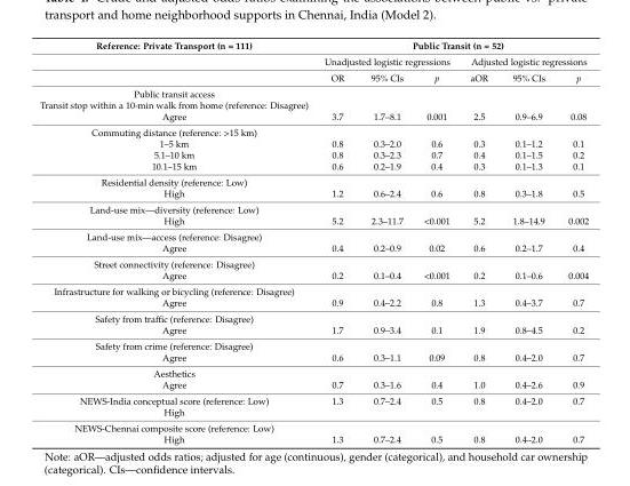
<table><thead><tr><td rowspan="3">Reference: Private Transport (n = 111)</td><td colspan="6">Public Transit (n = 52)</td></tr><tr><td colspan="3">Unadjusted logistic regressions</td><td colspan="3">Adjusted logistic regressions</td></tr><tr><td>OR</td><td>95% CIs</td><td>p</td><td>aOR</td><td>95% CIs</td><td>p</td></tr></thead><tbody><tr><td colspan="7">Public transit access</td></tr><tr><td colspan="7">Transit stop within a 10-min walk from home (reference: Disagree)</td></tr><tr><td>Agree</td><td>3.7</td><td>1.7–8.1</td><td>0.001</td><td>2.5</td><td>0.9–6.9</td><td>0.08</td></tr><tr><td colspan="7">Commuting distance (reference: &gt;15 km)</td></tr><tr><td>1–5 km</td><td>0.8</td><td>0.3–2.0</td><td>0.6</td><td>0.3</td><td>0.1–1.2</td><td>0.1</td></tr><tr><td>5.1–10 km</td><td>0.8</td><td>0.3–2.3</td><td>0.7</td><td>0.4</td><td>0.1–1.5</td><td>0.2</td></tr><tr><td>10.1–15 km</td><td>0.6</td><td>0.2–1.9</td><td>0.4</td><td>0.3</td><td>0.1–1.3</td><td>0.1</td></tr><tr><td colspan="7">Residential density (reference: Low)</td></tr><tr><td>High</td><td>1.2</td><td>0.6–2.4</td><td>0.6</td><td>0.8</td><td>0.3–1.8</td><td>0.5</td></tr><tr><td colspan="7">Land-use mix—diversity (reference: Low)</td></tr><tr><td>High</td><td>5.2</td><td>2.3–11.7</td><td>&lt;0.001</td><td>5.2</td><td>1.8–14.9</td><td>0.002</td></tr><tr><td colspan="7">Land-use mix—access (reference: Disagree)</td></tr><tr><td>Agree</td><td>0.4</td><td>0.2–0.9</td><td>0.02</td><td>0.6</td><td>0.2–1.7</td><td>0.4</td></tr><tr><td colspan="7">Street connectivity (reference: Disagree)</td></tr><tr><td>Agree</td><td>0.2</td><td>0.1–0.4</td><td>&lt;0.001</td><td>0.2</td><td>0.1–0.6</td><td>0.004</td></tr><tr><td colspan="7">Infrastructure for walking or bicycling (reference: Disagree)</td></tr><tr><td>Agree</td><td>0.9</td><td>0.4–2.2</td><td>0.8</td><td>1.3</td><td>0.4–3.7</td><td>0.7</td></tr><tr><td colspan="7">Safety from traffic (reference: Disagree)</td></tr><tr><td>Agree</td><td>1.7</td><td>0.9–3.4</td><td>0.1</td><td>1.9</td><td>0.8–4.5</td><td>0.2</td></tr><tr><td colspan="7">Safety from crime (reference: Disagree)</td></tr><tr><td>Agree</td><td>0.6</td><td>0.3–1.1</td><td>0.09</td><td>0.8</td><td>0.4–2.0</td><td>0.7</td></tr><tr><td colspan="7">Aesthetics</td></tr><tr><td>Agree</td><td>0.7</td><td>0.3–1.6</td><td>0.4</td><td>1.0</td><td>0.4–2.6</td><td>0.9</td></tr><tr><td>NEWS-India conceptual score (reference: Low)</td><td>1.3</td><td>0.7–2.4</td><td>0.5</td><td>0.8</td><td>0.4–2.0</td><td>0.7</td></tr><tr><td colspan="7">High</td></tr><tr><td colspan="7">NEWS-Chennai composite score (reference: Low)</td></tr><tr><td>High</td><td>1.3</td><td>0.7–2.4</td><td>0.5</td><td>0.8</td><td>0.4–2.0</td><td>0.7</td></tr></tbody></table>